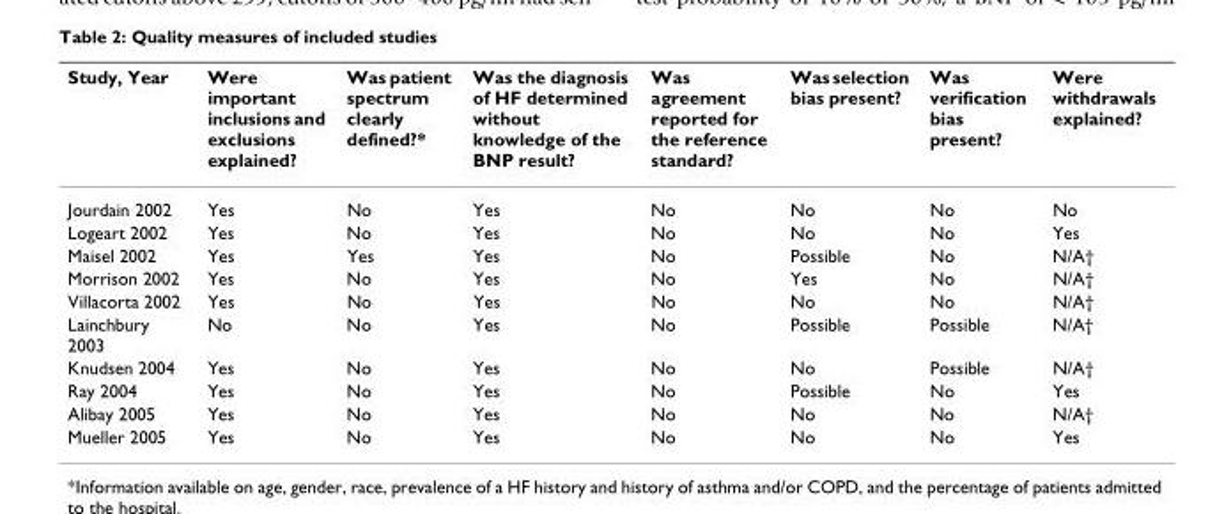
<table><thead><tr><td>Study, Year</td><td>Were important inclusions and exclusions explained?</td><td>Was patient spectrum clearly defined?*</td><td>Was the diagnosis of HF determined without knowledge of the BNP result?</td><td>Was agreement reported for the reference standard?</td><td>Was selection bias present?</td><td>Was verification bias present?</td><td>Were withdrawals explained?</td></tr></thead><tbody><tr><td>Jourdain 2002</td><td>Yes</td><td>No</td><td>Yes</td><td>No</td><td>No</td><td>No</td><td>No</td></tr><tr><td>Logeart 2002</td><td>Yes</td><td>No</td><td>Yes</td><td>No</td><td>No</td><td>No</td><td>Yes</td></tr><tr><td>Maisel 2002</td><td>Yes</td><td>Yes</td><td>Yes</td><td>No</td><td>Possible</td><td>No</td><td>N/A†</td></tr><tr><td>Morrison 2002</td><td>Yes</td><td>No</td><td>Yes</td><td>No</td><td>Yes</td><td>No</td><td>N/A†</td></tr><tr><td>Villacorta 2002</td><td>Yes</td><td>No</td><td>Yes</td><td>No</td><td>No</td><td>No</td><td>N/A†</td></tr><tr><td>Lainchbury 2003</td><td>No</td><td>No</td><td>Yes</td><td>No</td><td>Possible</td><td>Possible</td><td>N/A†</td></tr><tr><td>Knudsen 2004</td><td>Yes</td><td>No</td><td>Yes</td><td>No</td><td>No</td><td>Possible</td><td>N/A†</td></tr><tr><td>Ray 2004</td><td>Yes</td><td>No</td><td>Yes</td><td>No</td><td>Possible</td><td>No</td><td>Yes</td></tr><tr><td>Alibay 2005</td><td>Yes</td><td>No</td><td>Yes</td><td>No</td><td>No</td><td>No</td><td>N/A†</td></tr><tr><td>Mueller 2005</td><td>Yes</td><td>No</td><td>Yes</td><td>No</td><td>No</td><td>No</td><td>Yes</td></tr></tbody></table>